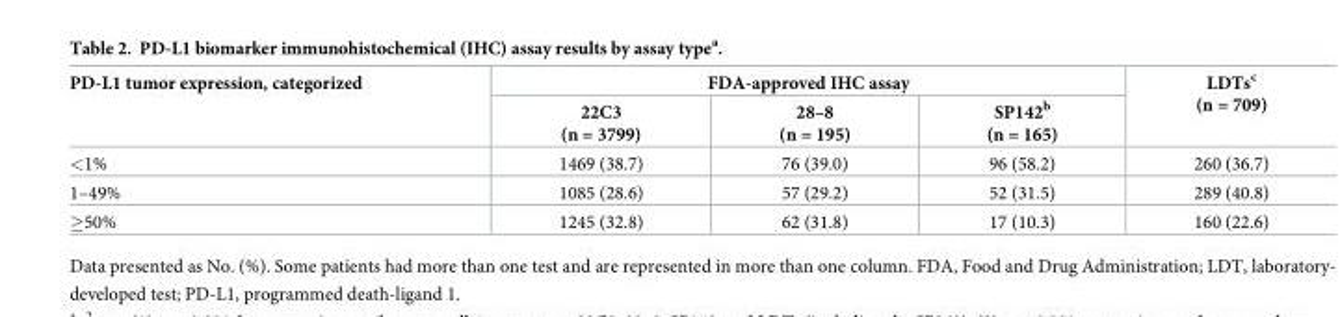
<table><thead><tr><td rowspan="2">PD-L1 tumor expression, categorized</td><td colspan="3">FDA-approved IHC assay</td><td rowspan="2">LDTs<sup>c</sup> (n = 709)</td></tr><tr><td>22C3 (n = 3799)</td><td>28–8 (n = 195)</td><td>SP142<sup>b</sup> (n = 165)</td></tr></thead><tbody><tr><td>&lt;1%</td><td>1469 (38.7)</td><td>76 (39.0)</td><td>96 (58.2)</td><td>260 (36.7)</td></tr><tr><td>1–49%</td><td>1085 (28.6)</td><td>57 (29.2)</td><td>52 (31.5)</td><td>289 (40.8)</td></tr><tr><td>≥50%</td><td>1245 (32.8)</td><td>62 (31.8)</td><td>17 (10.3)</td><td>160 (22.6)</td></tr></tbody></table>